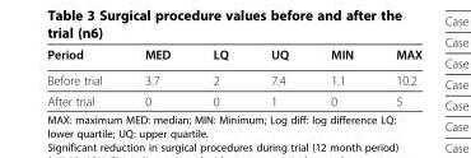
<table><thead><tr><td>Period</td><td>MED</td><td>LQ</td><td>UQ</td><td>MIN</td><td>MAX</td></tr></thead><tbody><tr><td>Before trial</td><td>3.7</td><td>2</td><td>7.4</td><td>1.1</td><td>10.2</td></tr><tr><td>After trial</td><td>0</td><td>0</td><td>1</td><td>0</td><td>5</td></tr></tbody></table>